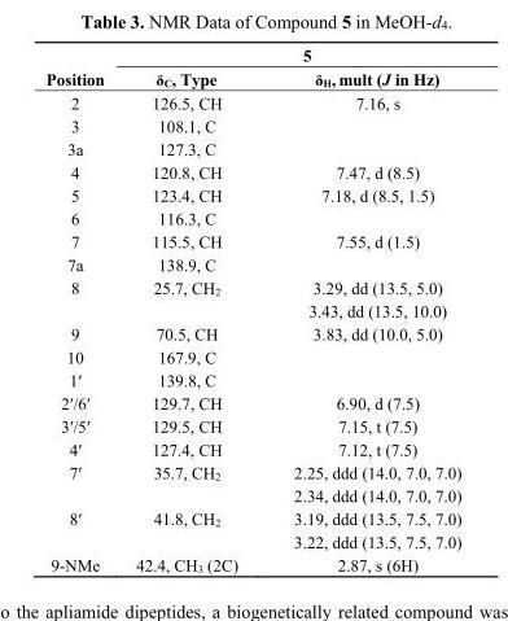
<table><thead><tr><td rowspan="2">Position</td><td colspan="2">5</td></tr><tr><td>δ<sub>C</sub>, Type</td><td>δ<sub>H</sub>, mult (J in Hz)</td></tr></thead><tbody><tr><td>2</td><td>126.5, CH</td><td>7.16, s</td></tr><tr><td>3</td><td>108.1, C</td><td></td></tr><tr><td>3a</td><td>127.3, C</td><td></td></tr><tr><td>4</td><td>120.8, CH</td><td>7.47, d (8.5)</td></tr><tr><td>5</td><td>123.4, CH</td><td>7.18, d (8.5, 1.5)</td></tr><tr><td>6</td><td>116.3, C</td><td></td></tr><tr><td>7</td><td>115.5, CH</td><td>7.55, d (1.5)</td></tr><tr><td>7a</td><td>138.9, C</td><td></td></tr><tr><td rowspan="2">8</td><td>25.7, CH<sub>2</sub></td><td>3.29, dd (13.5, 5.0)</td></tr><tr><td></td><td>3.43, dd (13.5, 10.0)</td></tr><tr><td>9</td><td>70.5, CH</td><td>3.83, dd (10.0, 5.0)</td></tr><tr><td>10</td><td>167.9, C</td><td></td></tr><tr><td>1′</td><td>139.8, C</td><td></td></tr><tr><td>2′/6′</td><td>129.7, CH</td><td>6.90, d (7.5)</td></tr><tr><td>3′/5′</td><td>129.5, CH</td><td>7.15, t (7.5)</td></tr><tr><td>4′</td><td>127.4, CH</td><td>7.12, t (7.5)</td></tr><tr><td rowspan="2">7′</td><td>35.7, CH<sub>2</sub></td><td>2.25, ddd (14.0, 7.0, 7.0)</td></tr><tr><td></td><td>2.34, ddd (14.0, 7.0, 7.0)</td></tr><tr><td rowspan="2">8′</td><td>41.8, CH<sub>2</sub></td><td>3.19, ddd (13.5, 7.5, 7.0)</td></tr><tr><td></td><td>3.22, ddd (13.5, 7.5, 7.0)</td></tr><tr><td>9-NMe</td><td>42.4, CH<sub>3</sub> (2C)</td><td>2.87, s (6H)</td></tr></tbody></table>